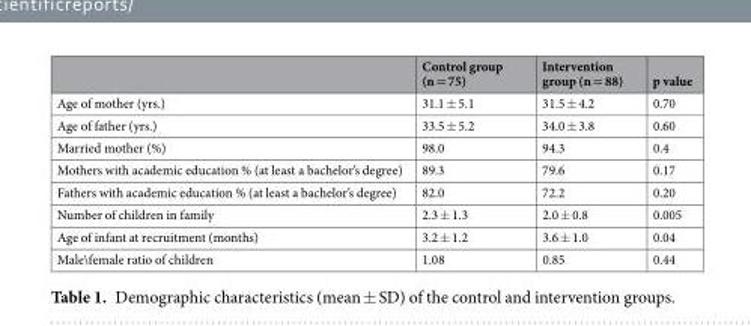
<table><thead><tr><td></td><td>Control group (n = 75)</td><td>Intervention group (n = 88)</td><td>p value</td></tr></thead><tbody><tr><td>Age of mother (yrs.)</td><td>31.1 ± 5.1</td><td>31.5 ± 4.2</td><td>0.70</td></tr><tr><td>Age of father (yrs.)</td><td>33.5 ± 5.2</td><td>34.0 ± 3.8</td><td>0.60</td></tr><tr><td>Married mother (%)</td><td>98.0</td><td>94.3</td><td>0.4</td></tr><tr><td>Mothers with academic education % (at least a bachelor’s degree)</td><td>89.3</td><td>79.6</td><td>0.17</td></tr><tr><td>Fathers with academic education % (at least a bachelor’s degree)</td><td>82.0</td><td>72.2</td><td>0.20</td></tr><tr><td>Number of children in family</td><td>2.3 ± 1.3</td><td>2.0 ± 0.8</td><td>0.005</td></tr><tr><td>Age of infant at recruitment (months)</td><td>3.2 ± 1.2</td><td>3.6 ± 1.0</td><td>0.04</td></tr><tr><td>Male\female ratio of children</td><td>1.08</td><td>0.85</td><td>0.44</td></tr></tbody></table>